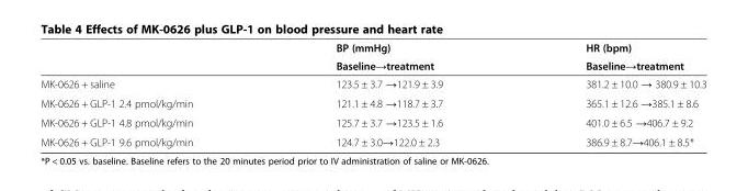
<table><thead><tr><td rowspan="2"></td><td rowspan="2">BP (mmHg) Baseline→treatment</td><td rowspan="2">HR (bpm) Baseline→treatment</td></tr><tr></tr></thead><tbody><tr><td>MK-0626 + saline</td><td>123.5 ± 3.7 →121.9 ± 3.9</td><td>381.2 ± 10.0 → 380.9 ± 10.3</td></tr><tr><td>MK-0626 + GLP-1 2.4 pmol/kg/min</td><td>121.1 ± 4.8 →118.7 ± 3.7</td><td>365.1 ± 12.6 →385.1 ± 8.6</td></tr><tr><td>MK-0626 + GLP-1 4.8 pmol/kg/min</td><td>125.7 ± 3.7 →123.5 ± 1.6</td><td>401.0 ± 6.5 →406.7 ± 9.2</td></tr><tr><td>MK-0626 + GLP-1 9.6 pmol/kg/min</td><td>124.7 ± 3.0→122.0 ± 2.3</td><td>386.9 ± 8.7→406.1 ± 8.5*</td></tr></tbody></table>